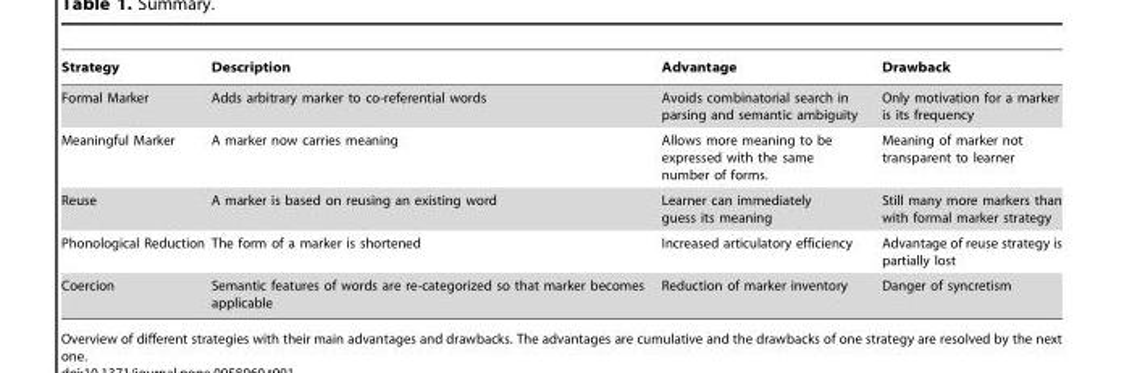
<table><thead><tr><td>Strategy</td><td>Description</td><td>Advantage</td><td>Drawback</td></tr></thead><tbody><tr><td>Formal Marker</td><td>Adds arbitrary marker to co-referential words</td><td>Avoids combinatorial search in parsing and semantic ambiguity</td><td>Only motivation for a marker is its frequency</td></tr><tr><td>Meaningful Marker</td><td>A marker now carries meaning</td><td>Allows more meaning to be expressed with the same number of forms.</td><td>Meaning of marker not transparent to learner</td></tr><tr><td>Reuse</td><td>A marker is based on reusing an existing word</td><td>Learner can immediately guess its meaning</td><td>Still many more markers than with formal marker strategy</td></tr><tr><td>Phonological Reduction</td><td>The form of a marker is shortened</td><td>Increased articulatory efficiency</td><td>Advantage of reuse strategy is partially lost</td></tr><tr><td>Coercion</td><td>Semantic features of words are re-categorized so that marker becomes applicable</td><td>Reduction of marker inventory</td><td>Danger of syncretism</td></tr></tbody></table>